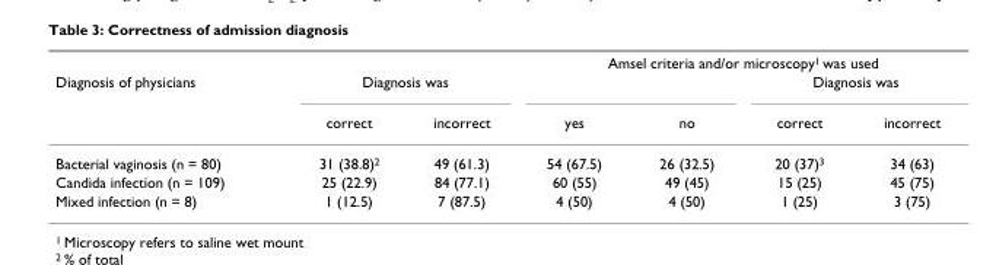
<table><thead><tr><td rowspan="3">Diagnosis of physicians</td><td></td><td></td><td colspan="4">Amsel criteria and/or microscopy<sup>1</sup> was used</td></tr><tr><td colspan="2">Diagnosis was</td><td rowspan="2">yes</td><td rowspan="2">no</td><td colspan="2">Diagnosis was</td></tr><tr><td>correct</td><td>incorrect</td><td>correct</td><td>incorrect</td></tr></thead><tbody><tr><td>Bacterial vaginosis (n = 80)</td><td>31 (38.8)<sup>2</sup></td><td>49 (61.3)</td><td>54 (67.5)</td><td>26 (32.5)</td><td>20 (37)<sup>3</sup></td><td>34 (63)</td></tr><tr><td>Candida infection (n = 109)</td><td>25 (22.9)</td><td>84 (77.1)</td><td>60 (55)</td><td>49 (45)</td><td>15 (25)</td><td>45 (75)</td></tr><tr><td>Mixed infection (n = 8)</td><td>1 (12.5)</td><td>7 (87.5)</td><td>4 (50)</td><td>4 (50)</td><td>1 (25)</td><td>3 (75)</td></tr></tbody></table>